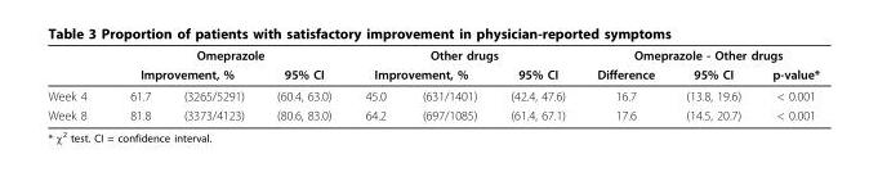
<table><thead><tr><td rowspan="3">Week 4</td><td colspan="3">Omeprazole</td><td colspan="3">Other drugs</td><td colspan="3">Omeprazole - Other drugs</td></tr><tr><td colspan="2">Improvement, %</td><td rowspan="2">95% CI (60.4, 63.0)</td><td colspan="2">Improvement, %</td><td rowspan="2">95% CI (42.4, 47.6)</td><td rowspan="2">Difference 16.7</td><td rowspan="2">95% CI (13.8, 19.6)</td><td rowspan="2">p-value* &lt; 0.001</td></tr><tr><td>61.7</td><td>(3265/5291)</td><td>45.0</td><td>(631/1401)</td></tr></thead><tbody><tr><td>Week 8</td><td>81.8</td><td>(3373/4123)</td><td>(80.6, 83.0)</td><td>64.2</td><td>(697/1085)</td><td>(61.4, 67.1)</td><td>17.6</td><td>(14.5, 20.7)</td><td>&lt; 0.001</td></tr></tbody></table>